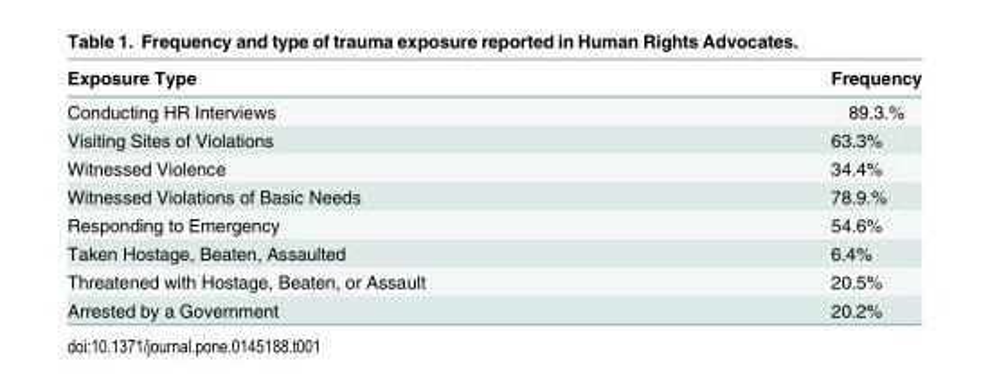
<table><thead><tr><td>Exposure Type</td><td>Frequency</td></tr></thead><tbody><tr><td>Conducting HR Interviews</td><td>89.3.%</td></tr><tr><td>Visiting Sites of Violations</td><td>63.3%</td></tr><tr><td>Witnessed Violence</td><td>34.4%</td></tr><tr><td>Witnessed Violations of Basic Needs</td><td>78.9.%</td></tr><tr><td>Responding to Emergency</td><td>54.6%</td></tr><tr><td>Taken Hostage, Beaten, Assaulted</td><td>6.4%</td></tr><tr><td>Threatened with Hostage, Beaten, or Assault</td><td>20.5%</td></tr><tr><td>Arrested by a Government</td><td>20.2%</td></tr></tbody></table>